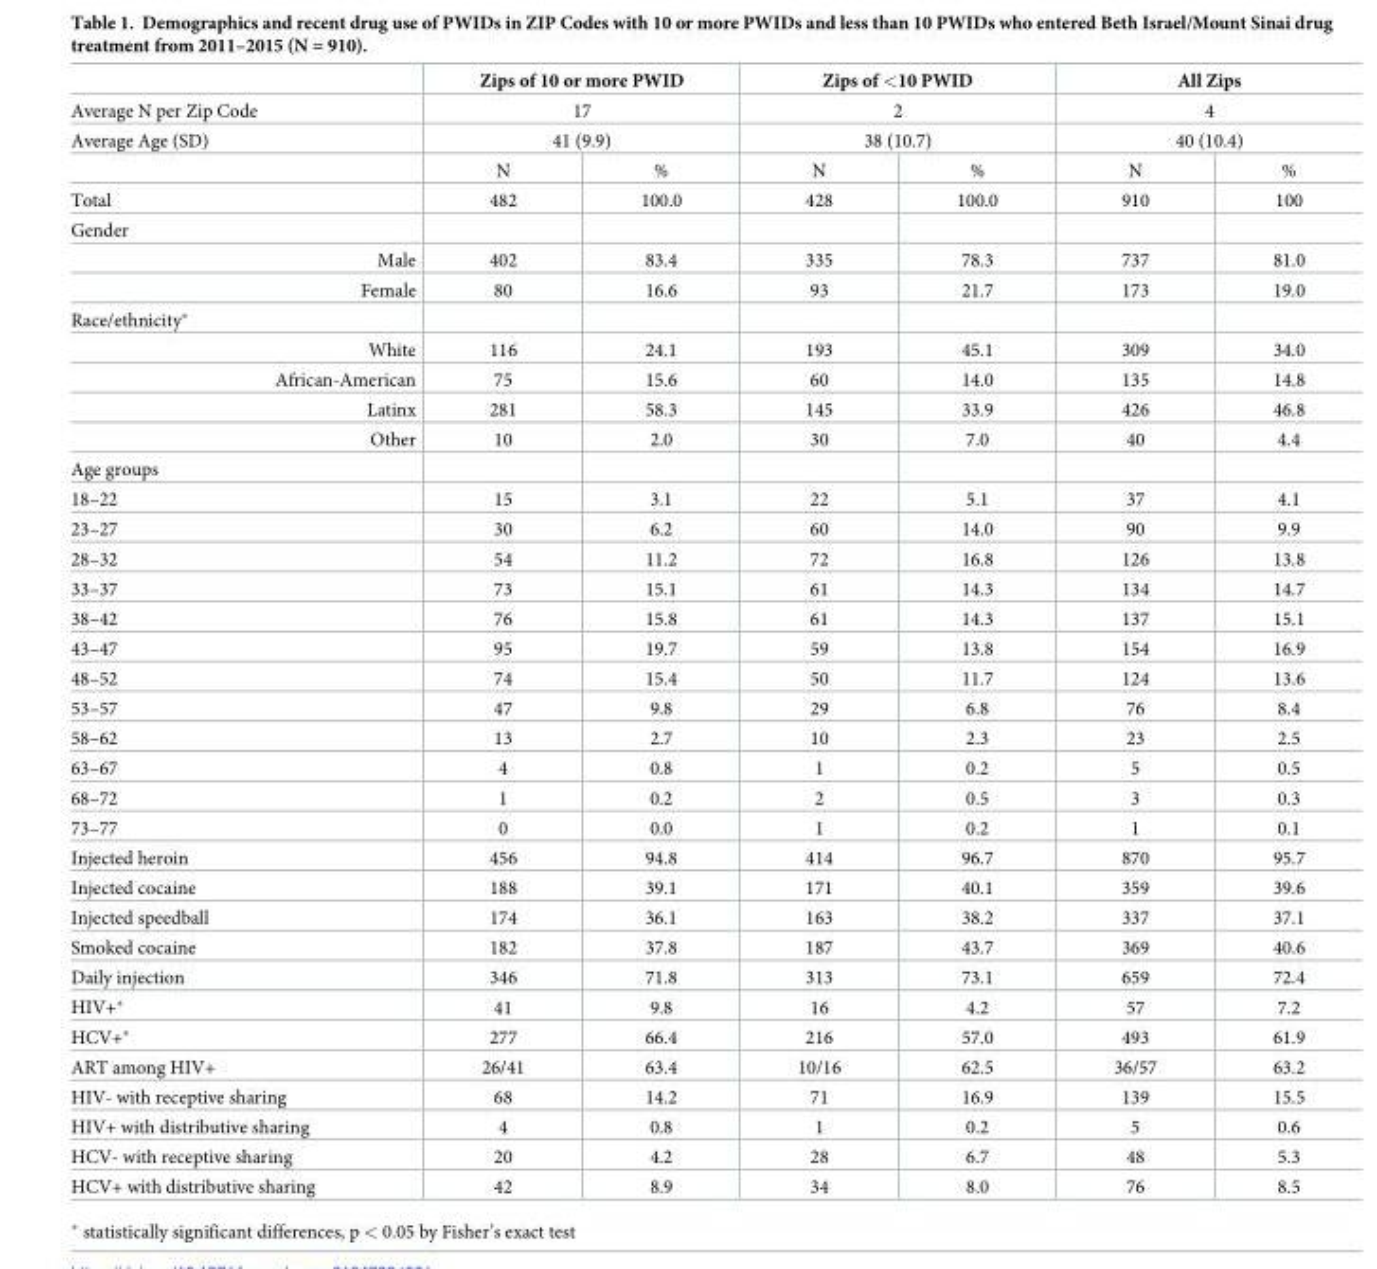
<table><thead><tr><td rowspan="4">Average N per Zip Code Average Age (SD)</td><td rowspan="3" colspan="2">Zips of 10 or more PWID 17 41 (9.9)</td><td rowspan="3" colspan="2">Zips of &lt;10 PWID 2 38 (10.7)</td><td rowspan="3" colspan="2">All Zips 4 40 (10.4)</td></tr><tr></tr><tr></tr><tr><td>N</td><td>%</td><td>N</td><td>%</td><td>N</td><td>%</td></tr></thead><tbody><tr><td>Total</td><td>482</td><td>100.0</td><td>428</td><td>100.0</td><td>910</td><td>100</td></tr><tr><td colspan="7">Gender</td></tr><tr><td>Male</td><td>402</td><td>83.4</td><td>335</td><td>78.3</td><td>737</td><td>81.0</td></tr><tr><td>Female</td><td>80</td><td>16.6</td><td>93</td><td>21.7</td><td>173</td><td>19.0</td></tr><tr><td colspan="7">Race/ethnicity*</td></tr><tr><td>White</td><td>116</td><td>24.1</td><td>193</td><td>45.1</td><td>309</td><td>34.0</td></tr><tr><td>African-American</td><td>75</td><td>15.6</td><td>60</td><td>14.0</td><td>135</td><td>14.8</td></tr><tr><td>Latinx</td><td>281</td><td>58.3</td><td>145</td><td>33.9</td><td>426</td><td>46.8</td></tr><tr><td>Other</td><td>10</td><td>2.0</td><td>30</td><td>7.0</td><td>40</td><td>4.4</td></tr><tr><td colspan="7">Age groups</td></tr><tr><td>18–22</td><td>15</td><td>3.1</td><td>22</td><td>5.1</td><td>37</td><td>4.1</td></tr><tr><td>23–27</td><td>30</td><td>6.2</td><td>60</td><td>14.0</td><td>90</td><td>9.9</td></tr><tr><td>28–32</td><td>54</td><td>11.2</td><td>72</td><td>16.8</td><td>126</td><td>13.8</td></tr><tr><td>33–37</td><td>73</td><td>15.1</td><td>61</td><td>14.3</td><td>134</td><td>14.7</td></tr><tr><td>38–42</td><td>76</td><td>15.8</td><td>61</td><td>14.3</td><td>137</td><td>15.1</td></tr><tr><td>43–47</td><td>95</td><td>19.7</td><td>59</td><td>13.8</td><td>154</td><td>16.9</td></tr><tr><td>48–52</td><td>74</td><td>15.4</td><td>50</td><td>11.7</td><td>124</td><td>13.6</td></tr><tr><td>53–57</td><td>47</td><td>9.8</td><td>29</td><td>6.8</td><td>76</td><td>8.4</td></tr><tr><td>58–62</td><td>13</td><td>2.7</td><td>10</td><td>2.3</td><td>23</td><td>2.5</td></tr><tr><td>63–67</td><td>4</td><td>0.8</td><td>1</td><td>0.2</td><td>5</td><td>0.5</td></tr><tr><td>68–72</td><td>1</td><td>0.2</td><td>2</td><td>0.5</td><td>3</td><td>0.3</td></tr><tr><td>73–77</td><td>0</td><td>0.0</td><td>1</td><td>0.2</td><td>1</td><td>0.1</td></tr><tr><td>Injected heroin</td><td>456</td><td>94.8</td><td>414</td><td>96.7</td><td>870</td><td>95.7</td></tr><tr><td>Injected cocaine</td><td>188</td><td>39.1</td><td>171</td><td>40.1</td><td>359</td><td>39.6</td></tr><tr><td>Injected speedball</td><td>174</td><td>36.1</td><td>163</td><td>38.2</td><td>337</td><td>37.1</td></tr><tr><td>Smoked cocaine</td><td>182</td><td>37.8</td><td>187</td><td>43.7</td><td>369</td><td>40.6</td></tr><tr><td>Daily injection</td><td>346</td><td>71.8</td><td>313</td><td>73.1</td><td>659</td><td>72.4</td></tr><tr><td>HIV+*</td><td>41</td><td>9.8</td><td>16</td><td>4.2</td><td>57</td><td>7.2</td></tr><tr><td>HCV+*</td><td>277</td><td>66.4</td><td>216</td><td>57.0</td><td>493</td><td>61.9</td></tr><tr><td>ART among HIV+</td><td>26/41</td><td>63.4</td><td>10/16</td><td>62.5</td><td>36/57</td><td>63.2</td></tr><tr><td>HIV- with receptive sharing</td><td>68</td><td>14.2</td><td>71</td><td>16.9</td><td>139</td><td>15.5</td></tr><tr><td>HIV+ with distributive sharing</td><td>4</td><td>0.8</td><td>1</td><td>0.2</td><td>5</td><td>0.6</td></tr><tr><td>HCV- with receptive sharing</td><td>20</td><td>4.2</td><td>28</td><td>6.7</td><td>48</td><td>5.3</td></tr><tr><td>HCV+ with distributive sharing</td><td>42</td><td>8.9</td><td>34</td><td>8.0</td><td>76</td><td>8.5</td></tr></tbody></table>